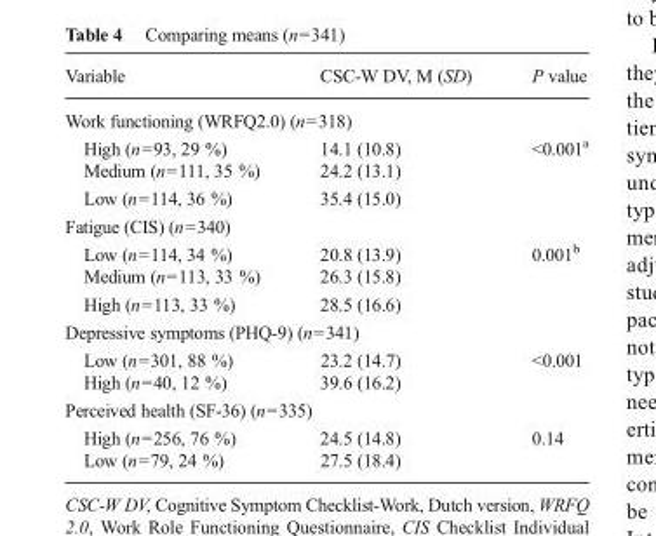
<table><thead><tr><td>Variable</td><td>CSC-W DV, M (SD)</td><td>P value</td></tr></thead><tbody><tr><td colspan="3">Work functioning (WRFQ2.0) (n=318)</td></tr><tr><td>High (n=93, 29 %)</td><td>14.1 (10.8)</td><td rowspan="3">&lt;0.001<sup>a</sup></td></tr><tr><td>Medium (n=111, 35 %)</td><td>24.2 (13.1)</td></tr><tr><td>Low (n=114, 36 %)</td><td>35.4 (15.0)</td></tr><tr><td colspan="3">Fatigue (CIS) (n=340)</td></tr><tr><td>Low (n=114, 34 %)</td><td>20.8 (13.9)</td><td rowspan="3">0.001<sup>b</sup></td></tr><tr><td>Medium (n=113, 33 %)</td><td>26.3 (15.8)</td></tr><tr><td>High (n=113, 33 %)</td><td>28.5 (16.6)</td></tr><tr><td colspan="3">Depressive symptoms (PHQ-9) (n=341)</td></tr><tr><td>Low (n=301, 88 %)</td><td>23.2 (14.7)</td><td rowspan="2">&lt;0.001</td></tr><tr><td>High (n=40, 12 %)</td><td>39.6 (16.2)</td></tr><tr><td colspan="3">Perceived health (SF-36) (n=335)</td></tr><tr><td>High (n=256, 76 %)</td><td>24.5 (14.8)</td><td rowspan="2">0.14</td></tr><tr><td>Low (n=79, 24 %)</td><td>27.5 (18.4)</td></tr></tbody></table>